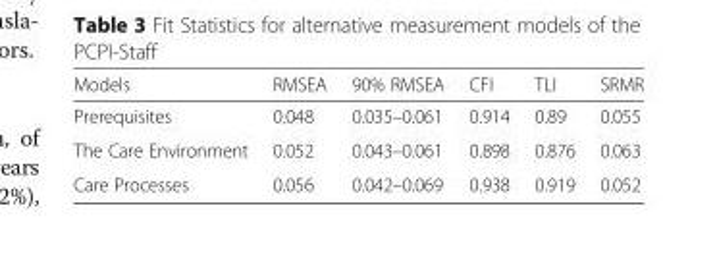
<table><thead><tr><td>Models</td><td>RMSEA</td><td>90% RMSEA</td><td>CFI</td><td>TLI</td><td>SRMR</td></tr></thead><tbody><tr><td>Prerequisites</td><td>0.048</td><td>0.035–0.061</td><td>0.914</td><td>0.89</td><td>0.055</td></tr><tr><td>The Care Environment</td><td>0.052</td><td>0.043–0.061</td><td>0.898</td><td>0.876</td><td>0.063</td></tr><tr><td>Care Processes</td><td>0.056</td><td>0.042–0.069</td><td>0.938</td><td>0.919</td><td>0.052</td></tr></tbody></table>